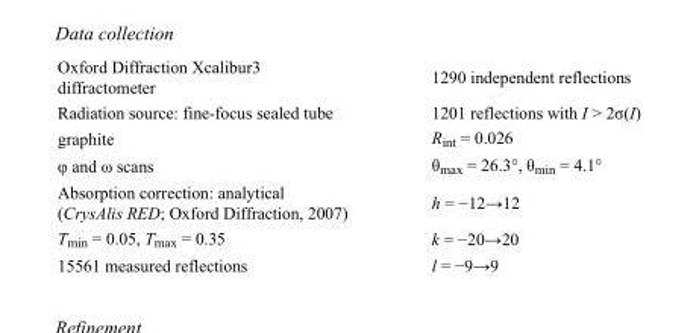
<table><tbody><tr><td>Oxford Diffraction Xcalibur3 diffractometer</td><td>1290 independent reflections</td></tr><tr><td>Radiation source: fine-focus sealed tube</td><td>1201 reflections with I &gt; 2σ(I)</td></tr><tr><td>graphite</td><td>R<sub>int</sub> = 0.026</td></tr><tr><td>φ and ω scans</td><td>θ<sub>max</sub> = 26.3°, θ<sub>min</sub> = 4.1°</td></tr><tr><td>Absorption correction: analytical (CrysAlis RED; Oxford Diffraction, 2007)</td><td>h = −12→12</td></tr><tr><td>T<sub>min</sub> = 0.05, T<sub>max</sub> = 0.35</td><td>k = −20→20</td></tr><tr><td>15561 measured reflections</td><td>l = −9→9</td></tr></tbody></table>